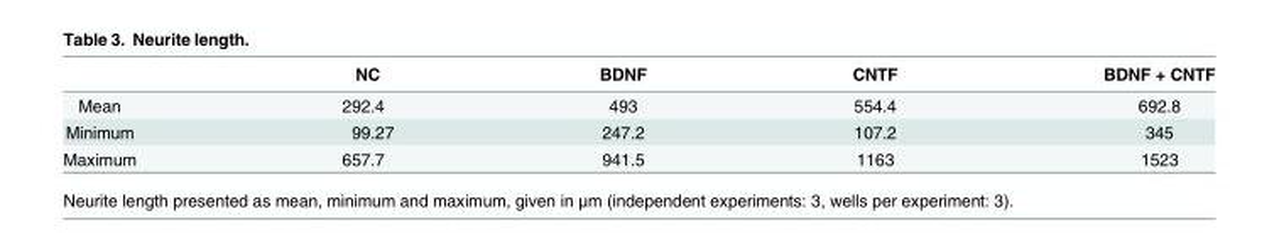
<table><thead><tr><td></td><td>NC</td><td>BDNF</td><td>CNTF</td><td>BDNF + CNTF</td></tr></thead><tbody><tr><td>Mean</td><td>292.4</td><td>493</td><td>554.4</td><td>692.8</td></tr><tr><td>Minimum</td><td>99.27</td><td>247.2</td><td>107.2</td><td>345</td></tr><tr><td>Maximum</td><td>657.7</td><td>941.5</td><td>1163</td><td>1523</td></tr></tbody></table>